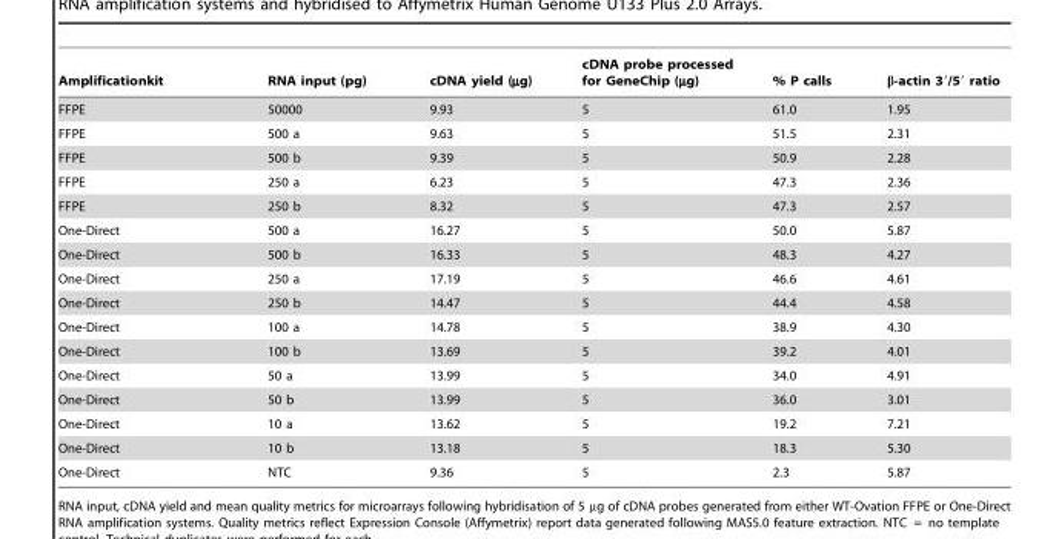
<table><thead><tr><td>Amplificationkit</td><td>RNA input (pg)</td><td>cDNA yield (µg)</td><td>cDNA probe processed for GeneChip (µg)</td><td>% P calls</td><td>β-actin 3′/5′ ratio</td></tr></thead><tbody><tr><td>FFPE</td><td>50000</td><td>9.93</td><td>5</td><td>61.0</td><td>1.95</td></tr><tr><td>FFPE</td><td>500 a</td><td>9.63</td><td>5</td><td>51.5</td><td>2.31</td></tr><tr><td>FFPE</td><td>500 b</td><td>9.39</td><td>5</td><td>50.9</td><td>2.28</td></tr><tr><td>FFPE</td><td>250 a</td><td>6.23</td><td>5</td><td>47.3</td><td>2.36</td></tr><tr><td>FFPE</td><td>250 b</td><td>8.32</td><td>5</td><td>47.3</td><td>2.57</td></tr><tr><td>One-Direct</td><td>500 a</td><td>16.27</td><td>5</td><td>50.0</td><td>5.87</td></tr><tr><td>One-Direct</td><td>500 b</td><td>16.33</td><td>5</td><td>48.3</td><td>4.27</td></tr><tr><td>One-Direct</td><td>250 a</td><td>17.19</td><td>5</td><td>46.6</td><td>4.61</td></tr><tr><td>One-Direct</td><td>250 b</td><td>14.47</td><td>5</td><td>44.4</td><td>4.58</td></tr><tr><td>One-Direct</td><td>100 a</td><td>14.78</td><td>5</td><td>38.9</td><td>4.30</td></tr><tr><td>One-Direct</td><td>100 b</td><td>13.69</td><td>5</td><td>39.2</td><td>4.01</td></tr><tr><td>One-Direct</td><td>50 a</td><td>13.99</td><td>5</td><td>34.0</td><td>4.91</td></tr><tr><td>One-Direct</td><td>50 b</td><td>13.99</td><td>5</td><td>36.0</td><td>3.01</td></tr><tr><td>One-Direct</td><td>10 a</td><td>13.62</td><td>5</td><td>19.2</td><td>7.21</td></tr><tr><td>One-Direct</td><td>10 b</td><td>13.18</td><td>5</td><td>18.3</td><td>5.30</td></tr><tr><td>One-Direct</td><td>NTC</td><td>9.36</td><td>5</td><td>2.3</td><td>5.87</td></tr></tbody></table>